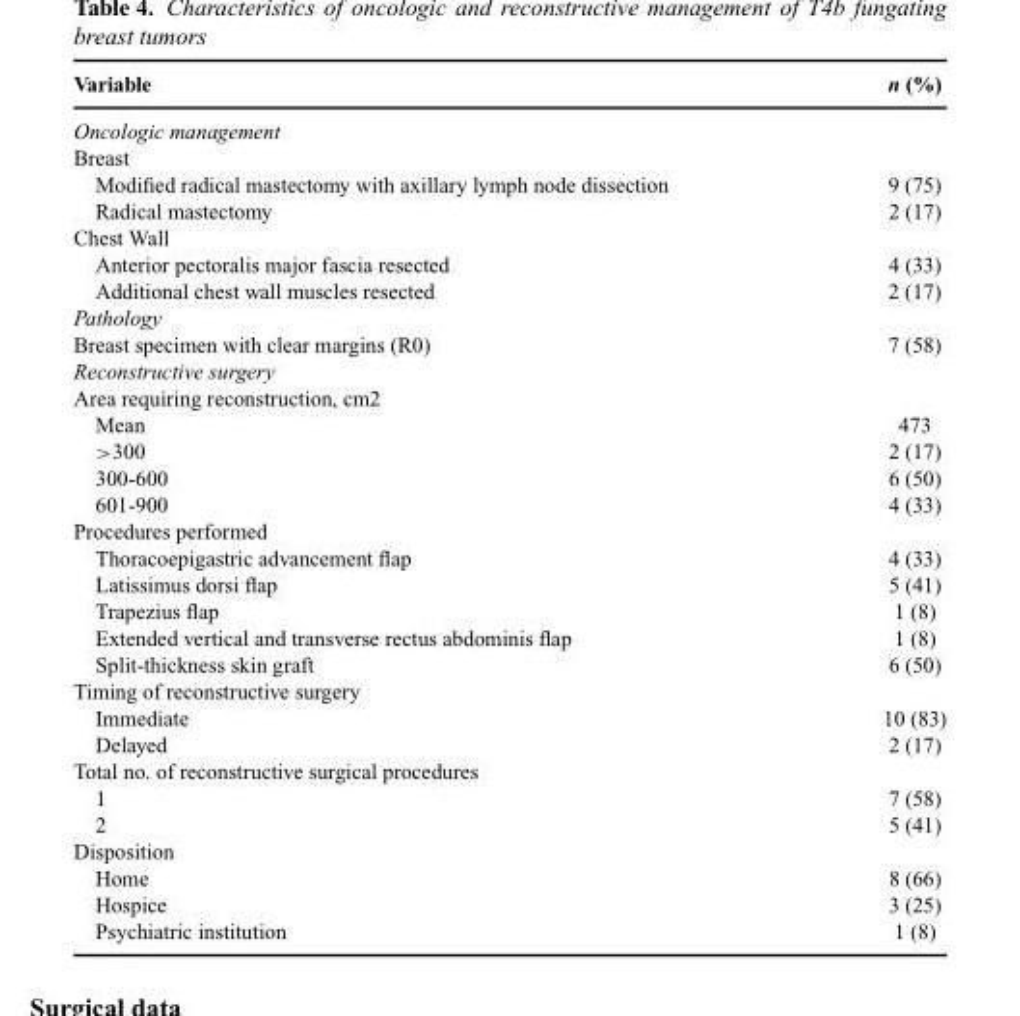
<table><thead><tr><td>Variable</td><td>n (%)</td></tr></thead><tbody><tr><td colspan="2">Oncologic management</td></tr><tr><td colspan="2">Breast</td></tr><tr><td>Modified radical mastectomy with axillary lymph node dissection</td><td>9 (75)</td></tr><tr><td>Radical mastectomy</td><td>2 (17)</td></tr><tr><td colspan="2">Chest Wall</td></tr><tr><td>Anterior pectoralis major fascia resected</td><td>4 (33)</td></tr><tr><td>Additional chest wall muscles resected</td><td>2 (17)</td></tr><tr><td colspan="2">Pathology</td></tr><tr><td>Breast specimen with clear margins (R0)</td><td>7 (58)</td></tr><tr><td colspan="2">Reconstructive surgery</td></tr><tr><td colspan="2">Area requiring reconstruction, cm2</td></tr><tr><td>Mean</td><td>473</td></tr><tr><td>&gt;300</td><td>2 (17)</td></tr><tr><td>300-600</td><td>6 (50)</td></tr><tr><td>601-900</td><td>4 (33)</td></tr><tr><td colspan="2">Procedures performed</td></tr><tr><td>Thoracoepigastric advancement flap</td><td>4 (33)</td></tr><tr><td>Latissimus dorsi flap</td><td>5 (41)</td></tr><tr><td>Trapezius flap</td><td>1 (8)</td></tr><tr><td>Extended vertical and transverse rectus abdominis flap</td><td>1 (8)</td></tr><tr><td>Split-thickness skin graft</td><td>6 (50)</td></tr><tr><td colspan="2">Timing of reconstructive surgery</td></tr><tr><td>Immediate</td><td>10 (83)</td></tr><tr><td>Delayed</td><td>2 (17)</td></tr><tr><td colspan="2">Total no. of reconstructive surgical procedures</td></tr><tr><td>1</td><td>7 (58)</td></tr><tr><td>2</td><td>5 (41)</td></tr><tr><td colspan="2">Disposition</td></tr><tr><td>Home</td><td>8 (66)</td></tr><tr><td>Hospice</td><td>3 (25)</td></tr><tr><td>Psychiatric institution</td><td>1 (8)</td></tr></tbody></table>